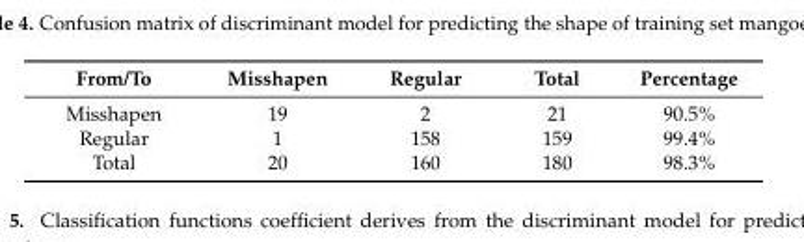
<table><thead><tr><td>From/To</td><td>Misshapen</td><td>Regular</td><td>Total</td><td>Percentage</td></tr></thead><tbody><tr><td>Misshapen</td><td>19</td><td>2</td><td>21</td><td>90.5%</td></tr><tr><td>Regular</td><td>1</td><td>158</td><td>159</td><td>99.4%</td></tr><tr><td>Total</td><td>20</td><td>160</td><td>180</td><td>98.3%</td></tr></tbody></table>